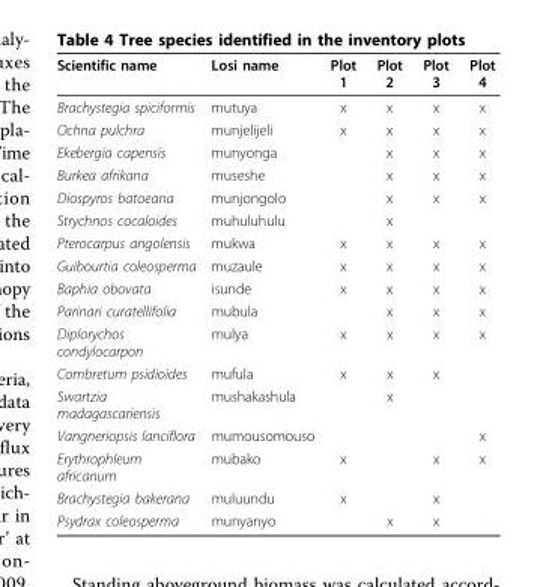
<table><thead><tr><td>Scientific name</td><td>Losi name</td><td>Plot 1</td><td>Plot 2</td><td>Plot 3</td><td>Plot 4</td></tr></thead><tbody><tr><td>Brachystegia spiciformis</td><td>mutuya</td><td>x</td><td>x</td><td>x</td><td>x</td></tr><tr><td>Ochna pulchra</td><td>munjelijeli</td><td>x</td><td>x</td><td>x</td><td>x</td></tr><tr><td>Ekebergia capensis</td><td>munyonga</td><td></td><td>x</td><td>x</td><td>x</td></tr><tr><td>Burkea afrikana</td><td>museshe</td><td></td><td>x</td><td>x</td><td>x</td></tr><tr><td>Diospyros batoeana</td><td>munjongolo</td><td></td><td>x</td><td>x</td><td>x</td></tr><tr><td>Strychnos cocaloides</td><td>muhuluhulu</td><td></td><td>x</td><td></td><td></td></tr><tr><td>Pterocarpus angolensis</td><td>mukwa</td><td>x</td><td>x</td><td>x</td><td>x</td></tr><tr><td>Guibourtia coleosperma</td><td>muzaule</td><td>x</td><td>x</td><td>x</td><td>x</td></tr><tr><td>Baphia obovata</td><td>isunde</td><td>x</td><td>x</td><td>x</td><td>x</td></tr><tr><td>Parinari curatellifolia</td><td>mubula</td><td></td><td>x</td><td>x</td><td>x</td></tr><tr><td>Diplorychos condylocarpon</td><td>mulya</td><td>x</td><td>x</td><td>x</td><td>x</td></tr><tr><td>Combretum psidioides</td><td>mufula</td><td>x</td><td>x</td><td>x</td><td></td></tr><tr><td>Swartzia madagascariensis</td><td>mushakashula</td><td></td><td>x</td><td></td><td></td></tr><tr><td>Vangneriopsis lanciflora</td><td>mumousomouso</td><td></td><td></td><td></td><td>x</td></tr><tr><td>Erythrophleum africanum</td><td>mubako</td><td>x</td><td></td><td>x</td><td>x</td></tr><tr><td>Brachystegia bakerana</td><td>muluundu</td><td>x</td><td></td><td>x</td><td></td></tr><tr><td>Psydrax coleosperma</td><td>munyanyo</td><td></td><td>x</td><td>x</td><td></td></tr></tbody></table>